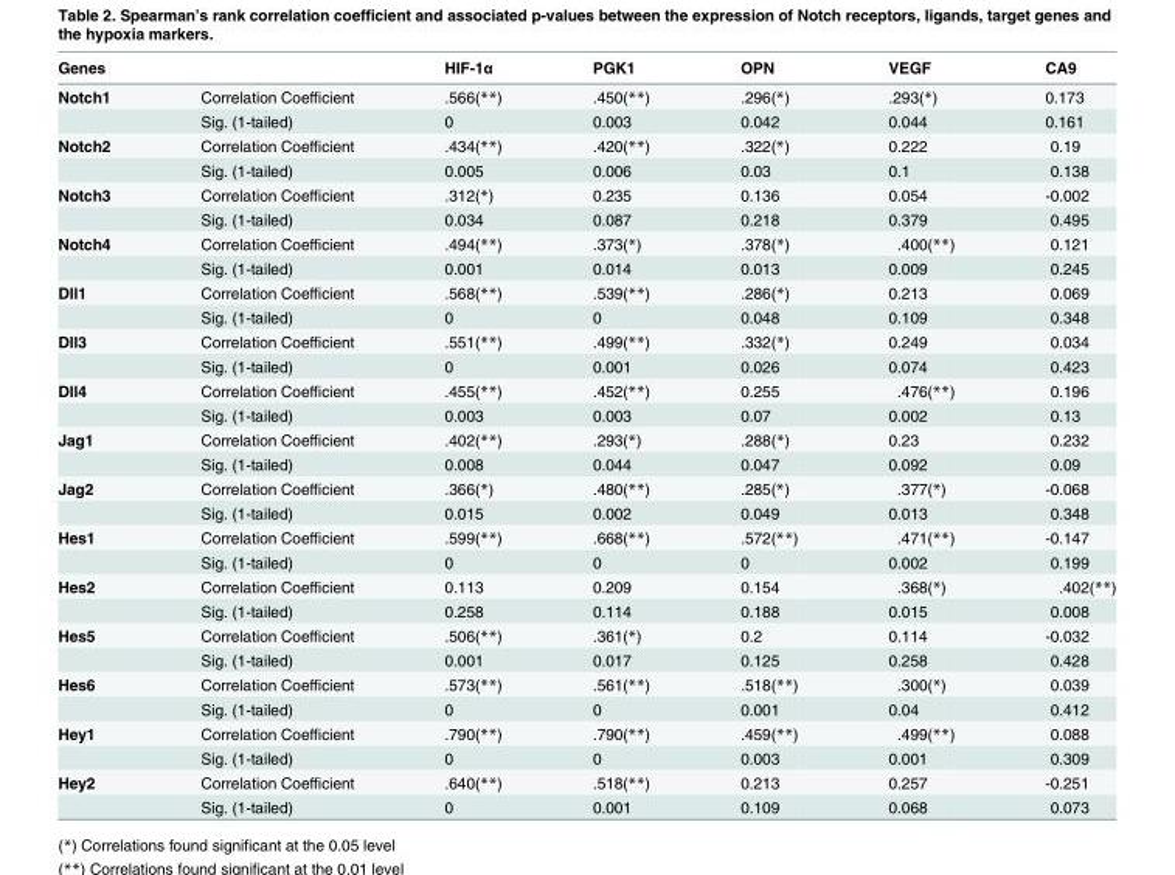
<table><thead><tr><td>Genes</td><td></td><td>HIF-1α</td><td>PGK1</td><td>OPN</td><td>VEGF</td><td>CA9</td></tr></thead><tbody><tr><td rowspan="2">Notch1</td><td>Correlation Coefficient</td><td>.566(**)</td><td>.450(**)</td><td>.296(*)</td><td>.293(*)</td><td>0.173</td></tr><tr><td>Sig. (1-tailed)</td><td>0</td><td>0.003</td><td>0.042</td><td>0.044</td><td>0.161</td></tr><tr><td rowspan="2">Notch2</td><td>Correlation Coefficient</td><td>.434(**)</td><td>.420(**)</td><td>.322(*)</td><td>0.222</td><td>0.19</td></tr><tr><td>Sig. (1-tailed)</td><td>0.005</td><td>0.006</td><td>0.03</td><td>0.1</td><td>0.138</td></tr><tr><td rowspan="2">Notch3</td><td>Correlation Coefficient</td><td>.312(*)</td><td>0.235</td><td>0.136</td><td>0.054</td><td>-0.002</td></tr><tr><td>Sig. (1-tailed)</td><td>0.034</td><td>0.087</td><td>0.218</td><td>0.379</td><td>0.495</td></tr><tr><td rowspan="2">Notch4</td><td>Correlation Coefficient</td><td>.494(**)</td><td>.373(*)</td><td>.378(*)</td><td>.400(**)</td><td>0.121</td></tr><tr><td>Sig. (1-tailed)</td><td>0.001</td><td>0.014</td><td>0.013</td><td>0.009</td><td>0.245</td></tr><tr><td rowspan="2">Dll1</td><td>Correlation Coefficient</td><td>.568(**)</td><td>.539(**)</td><td>.286(*)</td><td>0.213</td><td>0.069</td></tr><tr><td>Sig. (1-tailed)</td><td>0</td><td>0</td><td>0.048</td><td>0.109</td><td>0.348</td></tr><tr><td rowspan="2">Dll3</td><td>Correlation Coefficient</td><td>.551(**)</td><td>.499(**)</td><td>.332(*)</td><td>0.249</td><td>0.034</td></tr><tr><td>Sig. (1-tailed)</td><td>0</td><td>0.001</td><td>0.026</td><td>0.074</td><td>0.423</td></tr><tr><td rowspan="2">Dll4</td><td>Correlation Coefficient</td><td>.455(**)</td><td>.452(**)</td><td>0.255</td><td>.476(**)</td><td>0.196</td></tr><tr><td>Sig. (1-tailed)</td><td>0.003</td><td>0.003</td><td>0.07</td><td>0.002</td><td>0.13</td></tr><tr><td rowspan="2">Jag1</td><td>Correlation Coefficient</td><td>.402(**)</td><td>.293(*)</td><td>.288(*)</td><td>0.23</td><td>0.232</td></tr><tr><td>Sig. (1-tailed)</td><td>0.008</td><td>0.044</td><td>0.047</td><td>0.092</td><td>0.09</td></tr><tr><td rowspan="2">Jag2</td><td>Correlation Coefficient</td><td>.366(*)</td><td>.480(**)</td><td>.285(*)</td><td>.377(*)</td><td>-0.068</td></tr><tr><td>Sig. (1-tailed)</td><td>0.015</td><td>0.002</td><td>0.049</td><td>0.013</td><td>0.348</td></tr><tr><td rowspan="2">Hes1</td><td>Correlation Coefficient</td><td>.599(**)</td><td>.668(**)</td><td>.572(**)</td><td>.471(**)</td><td>-0.147</td></tr><tr><td>Sig. (1-tailed)</td><td>0</td><td>0</td><td>0</td><td>0.002</td><td>0.199</td></tr><tr><td rowspan="2">Hes2</td><td>Correlation Coefficient</td><td>0.113</td><td>0.209</td><td>0.154</td><td>.368(*)</td><td>.402(**)</td></tr><tr><td>Sig. (1-tailed)</td><td>0.258</td><td>0.114</td><td>0.188</td><td>0.015</td><td>0.008</td></tr><tr><td rowspan="2">Hes5</td><td>Correlation Coefficient</td><td>.506(**)</td><td>.361(*)</td><td>0.2</td><td>0.114</td><td>-0.032</td></tr><tr><td>Sig. (1-tailed)</td><td>0.001</td><td>0.017</td><td>0.125</td><td>0.258</td><td>0.428</td></tr><tr><td rowspan="2">Hes6</td><td>Correlation Coefficient</td><td>.573(**)</td><td>.561(**)</td><td>.518(**)</td><td>.300(*)</td><td>0.039</td></tr><tr><td>Sig. (1-tailed)</td><td>0</td><td>0</td><td>0.001</td><td>0.04</td><td>0.412</td></tr><tr><td rowspan="2">Hey1</td><td>Correlation Coefficient</td><td>.790(**)</td><td>.790(**)</td><td>.459(**)</td><td>.499(**)</td><td>0.088</td></tr><tr><td>Sig. (1-tailed)</td><td>0</td><td>0</td><td>0.003</td><td>0.001</td><td>0.309</td></tr><tr><td rowspan="2">Hey2</td><td>Correlation Coefficient</td><td>.640(**)</td><td>.518(**)</td><td>0.213</td><td>0.257</td><td>-0.251</td></tr><tr><td>Sig. (1-tailed)</td><td>0</td><td>0.001</td><td>0.109</td><td>0.068</td><td>0.073</td></tr></tbody></table>